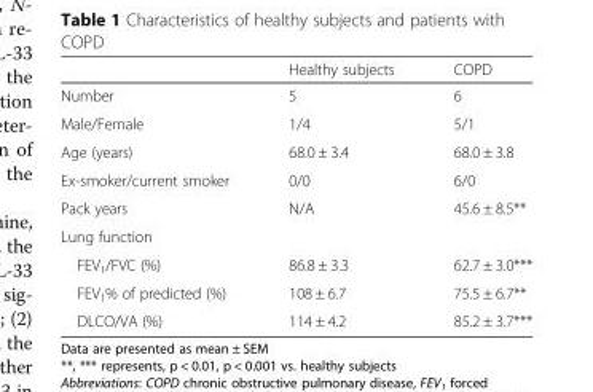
<table><thead><tr><td></td><td>Healthy subjects</td><td>COPD</td></tr></thead><tbody><tr><td>Number</td><td>5</td><td>6</td></tr><tr><td>Male/Female</td><td>1/4</td><td>5/1</td></tr><tr><td>Age (years)</td><td>68.0 ± 3.4</td><td>68.0 ± 3.8</td></tr><tr><td>Ex-smoker/current smoker</td><td>0/0</td><td>6/0</td></tr><tr><td>Pack years</td><td>N/A</td><td>45.6 ± 8.5**</td></tr><tr><td colspan="3">Lung function</td></tr><tr><td>FEV<sub>1</sub>/FVC (%)</td><td>86.8 ± 3.3</td><td>62.7 ± 3.0***</td></tr><tr><td>FEV<sub>1</sub>% of predicted (%)</td><td>108 ± 6.7</td><td>75.5 ± 6.7**</td></tr><tr><td>DLCO/VA (%)</td><td>114 ± 4.2</td><td>85.2 ± 3.7***</td></tr></tbody></table>